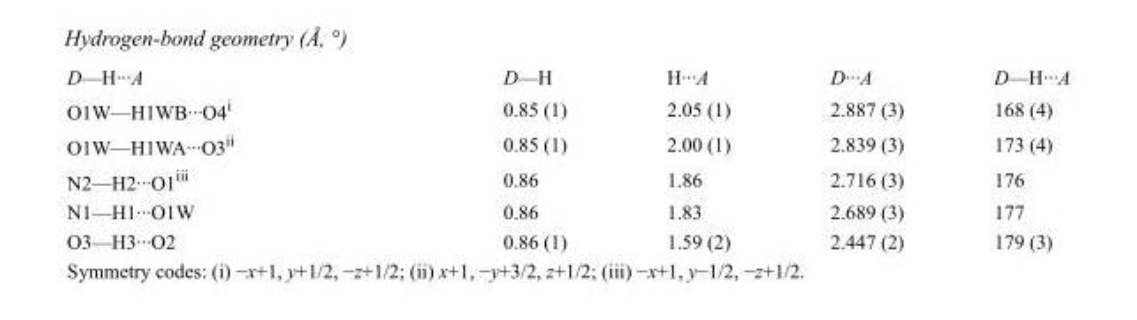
<table><tbody><tr><td>D—H···A</td><td>D—H</td><td>H···A</td><td>D···A</td><td>D—H···A</td></tr><tr><td>O1W—H1WB···O4<sup>i</sup></td><td>0.85 (1)</td><td>2.05 (1)</td><td>2.887 (3)</td><td>168 (4)</td></tr><tr><td>O1W—H1WA···O3<sup>ii</sup></td><td>0.85 (1)</td><td>2.00 (1)</td><td>2.839 (3)</td><td>173 (4)</td></tr><tr><td>N2—H2···O1<sup>iii</sup></td><td>0.86</td><td>1.86</td><td>2.716 (3)</td><td>176</td></tr><tr><td>N1—H1···O1W</td><td>0.86</td><td>1.83</td><td>2.689 (3)</td><td>177</td></tr><tr><td>O3—H3···O2</td><td>0.86 (1)</td><td>1.59 (2)</td><td>2.447 (2)</td><td>179 (3)</td></tr></tbody></table>